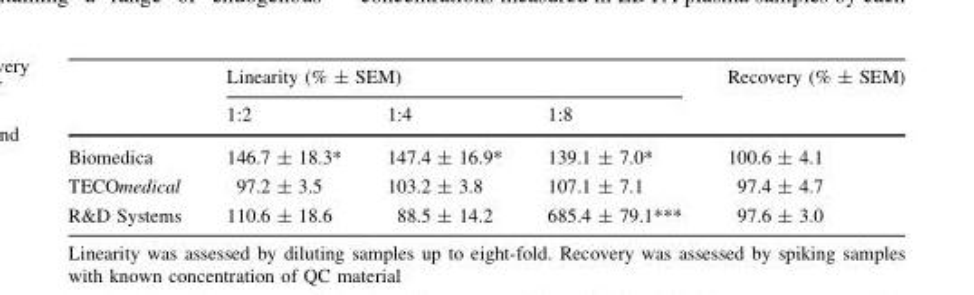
<table><thead><tr><td rowspan="2"></td><td colspan="3">Linearity (% ± SEM)</td><td rowspan="2">Recovery (% ± SEM)</td></tr><tr><td>1:2</td><td>1:4</td><td>1:8</td></tr></thead><tbody><tr><td>Biomedica</td><td>146.7 ± 18.3*</td><td>147.4 ± 16.9*</td><td>139.1 ± 7.0*</td><td>100.6 ± 4.1</td></tr><tr><td>TECOmedical</td><td>97.2 ± 3.5</td><td>103.2 ± 3.8</td><td>107.1 ± 7.1</td><td>97.4 ± 4.7</td></tr><tr><td>R&amp;D Systems</td><td>110.6 ± 18.6</td><td>88.5 ± 14.2</td><td>685.4 ± 79.1***</td><td>97.6 ± 3.0</td></tr></tbody></table>